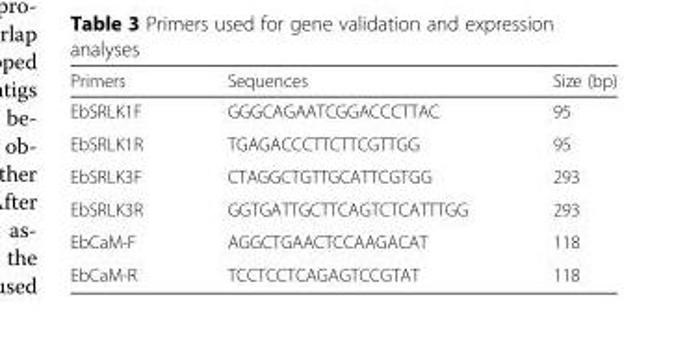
<table><thead><tr><td>Primers</td><td>Sequences</td><td>Size (bp)</td></tr></thead><tbody><tr><td>EbSRLK1F</td><td>GGGCAGAATCGGACCCTTAC</td><td>95</td></tr><tr><td>EbSRLK1R</td><td>TGAGACCCTTCTTCGTTGG</td><td>95</td></tr><tr><td>EbSRLK3F</td><td>CTAGGCTGTTGCATTCGTGG</td><td>293</td></tr><tr><td>EbSRLK3R</td><td>GGTGATTGCTTCAGTCTCATTTGG</td><td>293</td></tr><tr><td>EbCaM-F</td><td>AGGCTGAACTCCAAGACAT</td><td>118</td></tr><tr><td>EbCaM-R</td><td>TCCTCCTCAGAGTCCGTAT</td><td>118</td></tr></tbody></table>